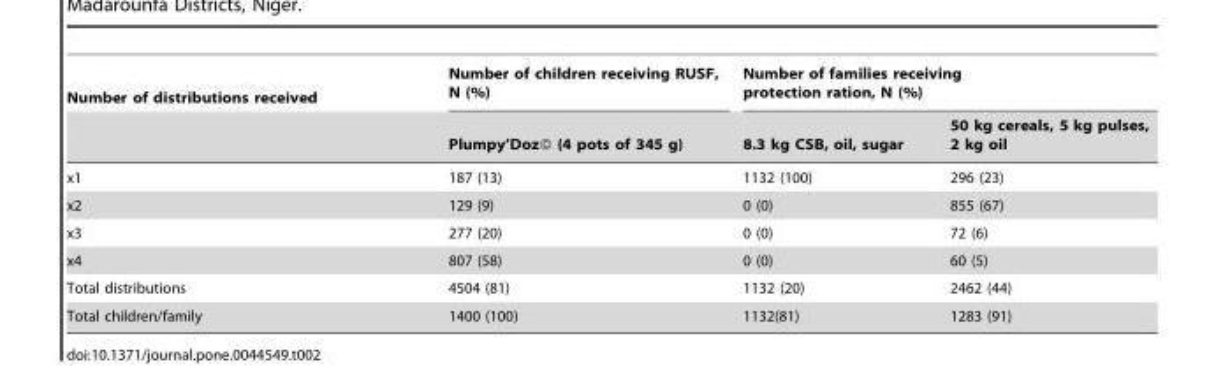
<table><thead><tr><td rowspan="2">Number of distributions received</td><td rowspan="2">Number of children receiving RUSF, N (%) Plumpy’Doz© (4 pots of 345 g)</td><td colspan="2">Number of families receiving protection ration, N (%)</td></tr><tr><td>8.3 kg CSB, oil, sugar</td><td>50 kg cereals, 5 kg pulses, 2 kg oil</td></tr></thead><tbody><tr><td>x1</td><td>187 (13)</td><td>1132 (100)</td><td>296 (23)</td></tr><tr><td>x2</td><td>129 (9)</td><td>0 (0)</td><td>855 (67)</td></tr><tr><td>x3</td><td>277 (20)</td><td>0 (0)</td><td>72 (6)</td></tr><tr><td>x4</td><td>807 (58)</td><td>0 (0)</td><td>60 (5)</td></tr><tr><td>Total distributions</td><td>4504 (81)</td><td>1132 (20)</td><td>2462 (44)</td></tr><tr><td>Total children/family</td><td>1400 (100)</td><td>1132(81)</td><td>1283 (91)</td></tr></tbody></table>